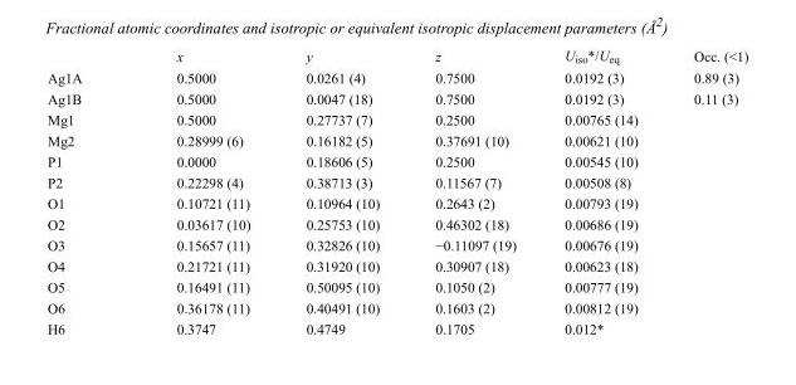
<table><thead><tr><td></td><td>x</td><td>y</td><td>z</td><td>U<sub>iso</sub>*/U<sub>eq</sub></td><td>Occ. (&lt;1)</td></tr></thead><tbody><tr><td>Ag1A</td><td>0.5000</td><td>0.0261 (4)</td><td>0.7500</td><td>0.0192 (3)</td><td>0.89 (3)</td></tr><tr><td>Ag1B</td><td>0.5000</td><td>0.0047 (18)</td><td>0.7500</td><td>0.0192 (3)</td><td>0.11 (3)</td></tr><tr><td>Mg1</td><td>0.5000</td><td>0.27737 (7)</td><td>0.2500</td><td>0.00765 (14)</td><td></td></tr><tr><td>Mg2</td><td>0.28999 (6)</td><td>0.16182 (5)</td><td>0.37691 (10)</td><td>0.00621 (10)</td><td></td></tr><tr><td>P1</td><td>0.0000</td><td>0.18606 (5)</td><td>0.2500</td><td>0.00545 (10)</td><td></td></tr><tr><td>P2</td><td>0.22298 (4)</td><td>0.38713 (3)</td><td>0.11567 (7)</td><td>0.00508 (8)</td><td></td></tr><tr><td>O1</td><td>0.10721 (11)</td><td>0.10964 (10)</td><td>0.2643 (2)</td><td>0.00793 (19)</td><td></td></tr><tr><td>O2</td><td>0.03617 (10)</td><td>0.25753 (10)</td><td>0.46302 (18)</td><td>0.00686 (19)</td><td></td></tr><tr><td>O3</td><td>0.15657 (11)</td><td>0.32826 (10)</td><td>−0.11097 (19)</td><td>0.00676 (19)</td><td></td></tr><tr><td>O4</td><td>0.21721 (11)</td><td>0.31920 (10)</td><td>0.30907 (18)</td><td>0.00623 (18)</td><td></td></tr><tr><td>O5</td><td>0.16491 (11)</td><td>0.50095 (10)</td><td>0.1050 (2)</td><td>0.00777 (19)</td><td></td></tr><tr><td>O6</td><td>0.36178 (11)</td><td>0.40491 (10)</td><td>0.1603 (2)</td><td>0.00812 (19)</td><td></td></tr><tr><td>H6</td><td>0.3747</td><td>0.4749</td><td>0.1705</td><td>0.012*</td><td></td></tr></tbody></table>